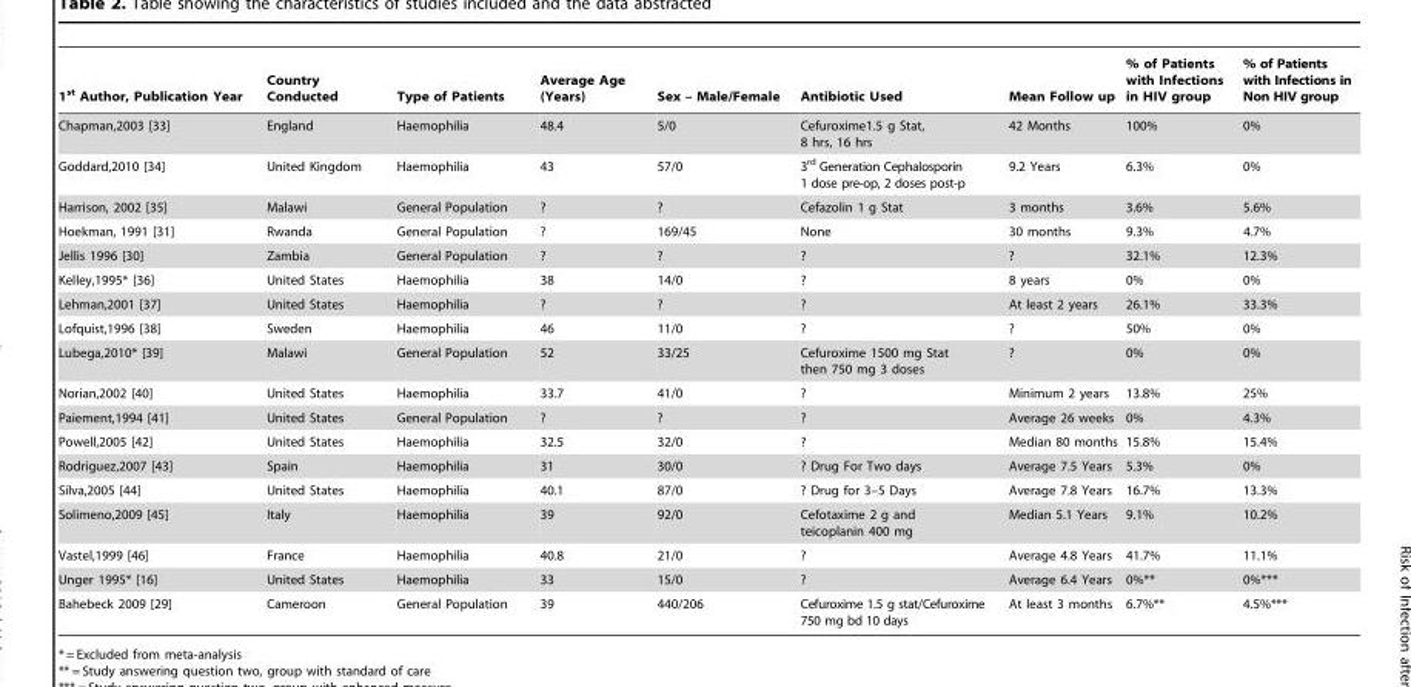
<table><thead><tr><td>1<sup>st</sup> Author, Publication Year</td><td>Country Conducted</td><td>Type of Patients</td><td>Average Age (Years)</td><td>Sex – Male/Female</td><td>Antibiotic Used</td><td>Mean Follow up</td><td>% of Patients with Infections in HIV group</td><td>% of Patients with Infections in Non HIV group</td></tr></thead><tbody><tr><td>Chapman,2003 [33]</td><td>England</td><td>Haemophilia</td><td>48.4</td><td>5/0</td><td>Cefuroxime1.5 g Stat, 8 hrs, 16 hrs</td><td>42 Months</td><td>100%</td><td>0%</td></tr><tr><td>Goddard,2010 [34]</td><td>United Kingdom</td><td>Haemophilia</td><td>43</td><td>57/0</td><td>3<sup>rd</sup> Generation Cephalosporin 1 dose pre-op, 2 doses post-p</td><td>9.2 Years</td><td>6.3%</td><td>0%</td></tr><tr><td>Harrison, 2002 [35]</td><td>Malawi</td><td>General Population</td><td>?</td><td>?</td><td>Cefazolin 1 g Stat</td><td>3 months</td><td>3.6%</td><td>5.6%</td></tr><tr><td>Hoekman, 1991 [31]</td><td>Rwanda</td><td>General Population</td><td>?</td><td>169/45</td><td>None</td><td>30 months</td><td>9.3%</td><td>4.7%</td></tr><tr><td>Jellis 1996 [30]</td><td>Zambia</td><td>General Population</td><td>?</td><td>?</td><td>?</td><td>?</td><td>32.1%</td><td>12.3%</td></tr><tr><td>Kelley,1995* [36]</td><td>United States</td><td>Haemophilia</td><td>38</td><td>14/0</td><td>?</td><td>8 years</td><td>0%</td><td>0%</td></tr><tr><td>Lehman,2001 [37]</td><td>United States</td><td>Haemophilia</td><td>?</td><td>?</td><td>?</td><td>At least 2 years</td><td>26.1%</td><td>33.3%</td></tr><tr><td>Lofquist,1996 [38]</td><td>Sweden</td><td>Haemophilia</td><td>46</td><td>11/0</td><td>?</td><td>?</td><td>50%</td><td>0%</td></tr><tr><td>Lubega,2010* [39]</td><td>Malawi</td><td>General Population</td><td>52</td><td>33/25</td><td>Cefuroxime 1500 mg Stat then 750 mg 3 doses</td><td>?</td><td>0%</td><td>0%</td></tr><tr><td>Norian,2002 [40]</td><td>United States</td><td>Haemophilia</td><td>33.7</td><td>41/0</td><td>?</td><td>Minimum 2 years</td><td>13.8%</td><td>25%</td></tr><tr><td>Paiement,1994 [41]</td><td>United States</td><td>General Population</td><td>?</td><td>?</td><td>?</td><td>Average 26 weeks</td><td>0%</td><td>4.3%</td></tr><tr><td>Powell,2005 [42]</td><td>United States</td><td>Haemophilia</td><td>32.5</td><td>32/0</td><td>?</td><td>Median 80 months</td><td>15.8%</td><td>15.4%</td></tr><tr><td>Rodriguez,2007 [43]</td><td>Spain</td><td>Haemophilia</td><td>31</td><td>30/0</td><td>? Drug For Two days</td><td>Average 7.5 Years</td><td>5.3%</td><td>0%</td></tr><tr><td>Silva,2005 [44]</td><td>United States</td><td>Haemophilia</td><td>40.1</td><td>87/0</td><td>? Drug for 3–5 Days</td><td>Average 7.8 Years</td><td>16.7%</td><td>13.3%</td></tr><tr><td>Solimeno,2009 [45]</td><td>Italy</td><td>Haemophilia</td><td>39</td><td>92/0</td><td>Cefotaxime 2 g and teicoplanin 400 mg</td><td>Median 5.1 Years</td><td>9.1%</td><td>10.2%</td></tr><tr><td>Vastel,1999 [46]</td><td>France</td><td>Haemophilia</td><td>40.8</td><td>21/0</td><td>?</td><td>Average 4.8 Years</td><td>41.7%</td><td>11.1%</td></tr><tr><td>Unger 1995* [16]</td><td>United States</td><td>Haemophilia</td><td>33</td><td>15/0</td><td>?</td><td>Average 6.4 Years</td><td>0%**</td><td>0%***</td></tr><tr><td>Bahebeck 2009 [29]</td><td>Cameroon</td><td>General Population</td><td>39</td><td>440/206</td><td>Cefuroxime 1.5 g stat/Cefuroxime 750 mg bd 10 days</td><td>At least 3 months</td><td>6.7%**</td><td>4.5%***</td></tr></tbody></table>